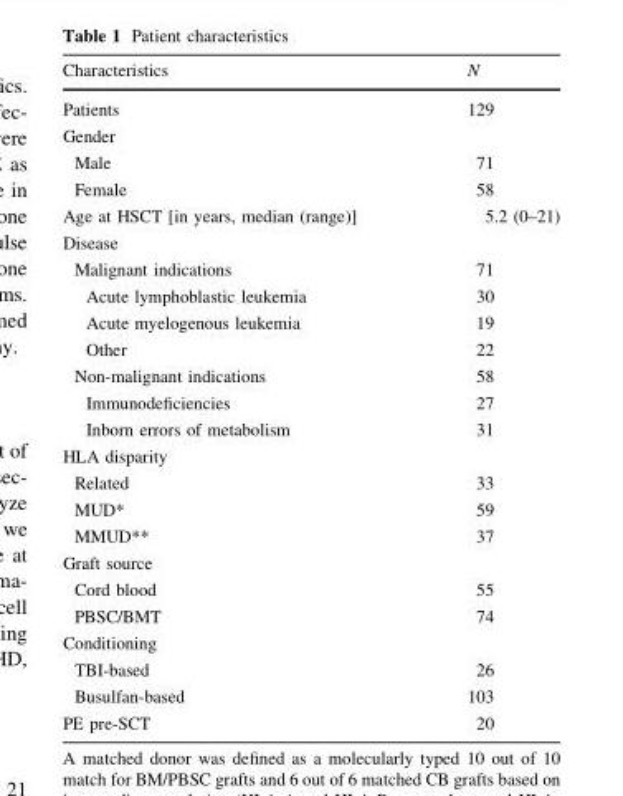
<table><thead><tr><td>Characteristics</td><td>N</td></tr></thead><tbody><tr><td>Patients</td><td>129</td></tr><tr><td colspan="2">Gender</td></tr><tr><td>Male</td><td>71</td></tr><tr><td>Female</td><td>58</td></tr><tr><td>Age at HSCT [in years, median (range)]</td><td>5.2 (0–21)</td></tr><tr><td colspan="2">Disease</td></tr><tr><td>Malignant indications</td><td>71</td></tr><tr><td>Acute lymphoblastic leukemia</td><td>30</td></tr><tr><td>Acute myelogenous leukemia</td><td>19</td></tr><tr><td>Other</td><td>22</td></tr><tr><td>Non-malignant indications</td><td>58</td></tr><tr><td>Immunodeficiencies</td><td>27</td></tr><tr><td>Inborn errors of metabolism</td><td>31</td></tr><tr><td colspan="2">HLA disparity</td></tr><tr><td>Related</td><td>33</td></tr><tr><td>MUD*</td><td>59</td></tr><tr><td>MMUD**</td><td>37</td></tr><tr><td colspan="2">Graft source</td></tr><tr><td>Cord blood</td><td>55</td></tr><tr><td>PBSC/BMT</td><td>74</td></tr><tr><td colspan="2">Conditioning</td></tr><tr><td>TBI-based</td><td>26</td></tr><tr><td>Busulfan-based</td><td>103</td></tr><tr><td>PE pre-SCT</td><td>20</td></tr></tbody></table>